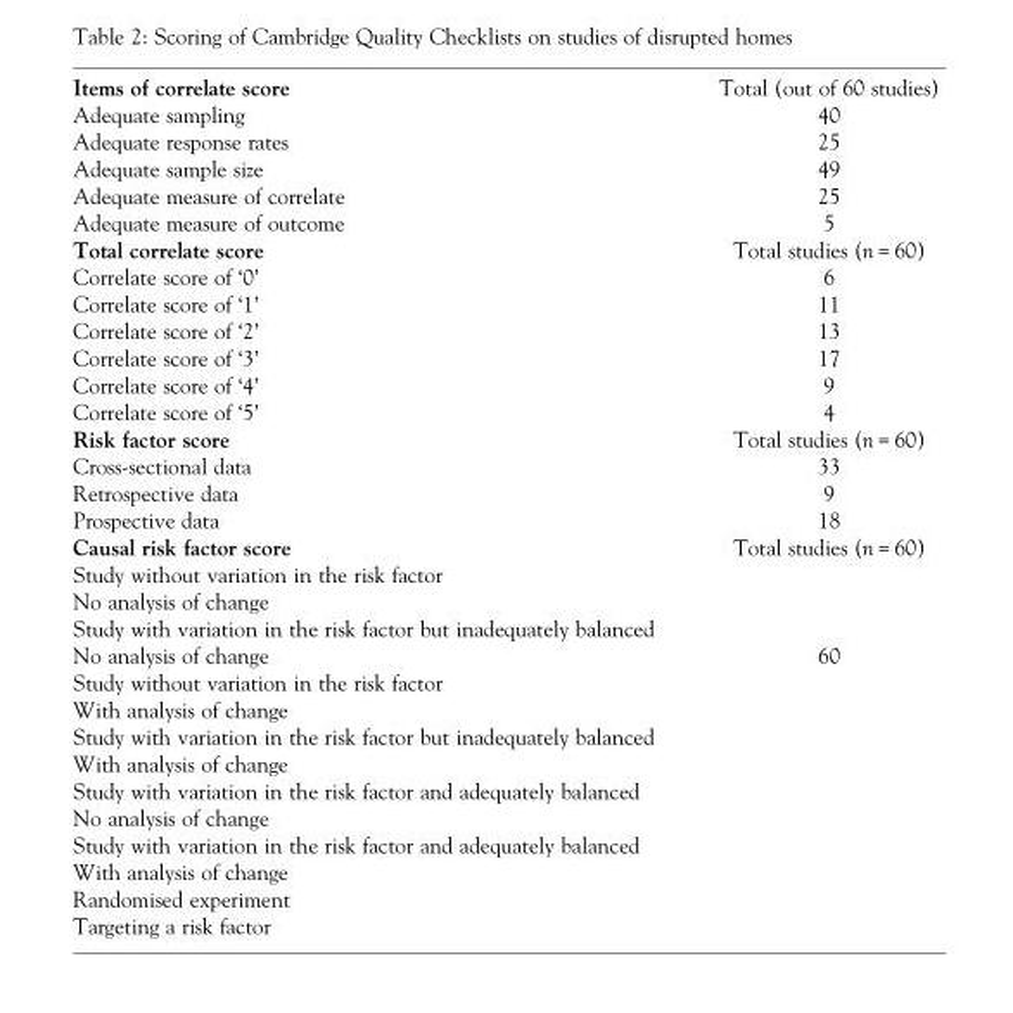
<table><tbody><tr><td>Items of correlate score</td><td>Total (out of 60 studies)</td></tr><tr><td>Adequate sampling</td><td>40</td></tr><tr><td>Adequate response rates</td><td>25</td></tr><tr><td>Adequate sample size</td><td>49</td></tr><tr><td>Adequate measure of correlate</td><td>25</td></tr><tr><td>Adequate measure of outcome</td><td>5</td></tr><tr><td>Total correlate score</td><td>Total studies (n = 60)</td></tr><tr><td>Correlate score of ‘0’</td><td>6</td></tr><tr><td>Correlate score of ‘1’</td><td>11</td></tr><tr><td>Correlate score of ‘2’</td><td>13</td></tr><tr><td>Correlate score of ‘3’</td><td>17</td></tr><tr><td>Correlate score of ‘4’</td><td>9</td></tr><tr><td>Correlate score of ‘5’</td><td>4</td></tr><tr><td>Risk factor score</td><td>Total studies (n = 60)</td></tr><tr><td>Cross-sectional data</td><td>33</td></tr><tr><td>Retrospective data</td><td>9</td></tr><tr><td>Prospective data</td><td>18</td></tr><tr><td>Causal risk factor score</td><td>Total studies (n = 60)</td></tr><tr><td colspan="2">Study without variation in the risk factor</td></tr><tr><td colspan="2">No analysis of change</td></tr><tr><td colspan="2">Study with variation in the risk factor but inadequately balanced</td></tr><tr><td>No analysis of change</td><td>60</td></tr><tr><td colspan="2">Study without variation in the risk factor</td></tr><tr><td colspan="2">With analysis of change</td></tr><tr><td colspan="2">Study with variation in the risk factor but inadequately balanced</td></tr><tr><td colspan="2">With analysis of change</td></tr><tr><td colspan="2">Study with variation in the risk factor and adequately balanced</td></tr><tr><td colspan="2">No analysis of change</td></tr><tr><td colspan="2">Study with variation in the risk factor and adequately balanced</td></tr><tr><td colspan="2">With analysis of change</td></tr><tr><td colspan="2">Randomised experiment</td></tr><tr><td>Targeting a risk factor</td><td></td></tr></tbody></table>